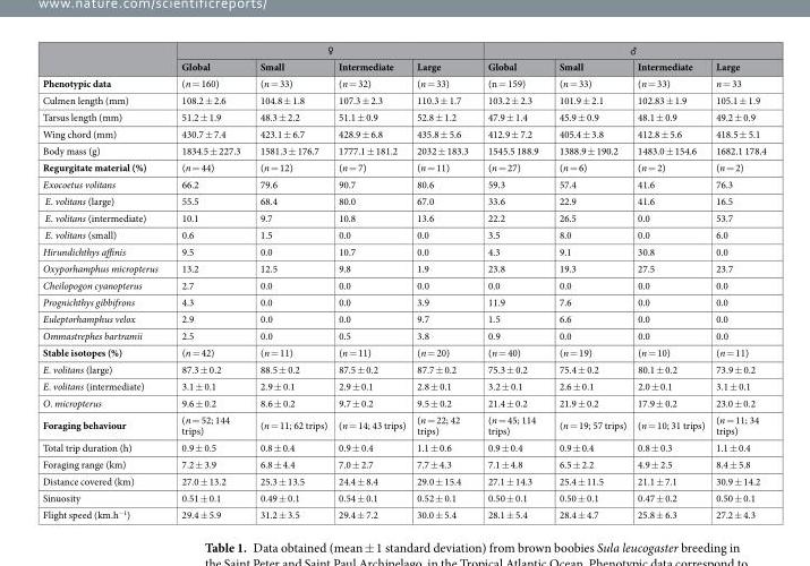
<table><thead><tr><td rowspan="2"></td><td colspan="4">♀</td><td colspan="4">♂</td></tr><tr><td>Global</td><td>Small</td><td>Intermediate</td><td>Large</td><td>Global</td><td>Small</td><td>Intermediate</td><td>Large</td></tr></thead><tbody><tr><td>Phenotypic data</td><td>(n = 160)</td><td>(n = 33)</td><td>(n = 32)</td><td>(n = 33)</td><td>(n = 159)</td><td>(n = 33)</td><td>(n = 33)</td><td>n = 33</td></tr><tr><td>Culmen length (mm)</td><td>108.2 ± 2.6</td><td>104.8 ± 1.8</td><td>107.3 ± 2.3</td><td>110.3 ± 1.7</td><td>103.2 ± 2.3</td><td>101.9 ± 2.1</td><td>102.83 ± 1.9</td><td>105.1 ± 1.9</td></tr><tr><td>Tarsus length (mm)</td><td>51.2 ± 1.9</td><td>48.3 ± 2.2</td><td>51.1 ± 0.9</td><td>52.8 ± 1.2</td><td>47.9 ± 1.4</td><td>45.9 ± 0.9</td><td>48.1 ± 0.9</td><td>49.2 ± 0.9</td></tr><tr><td>Wing chord (mm)</td><td>430.7 ± 7.4</td><td>423.1 ± 6.7</td><td>428.9 ± 6.8</td><td>435.8 ± 5.6</td><td>412.9 ± 7.2</td><td>405.4 ± 3.8</td><td>412.8 ± 5.6</td><td>418.5 ± 5.1</td></tr><tr><td>Body mass (g)</td><td>1834.5 ± 227.3</td><td>1581.3 ± 176.7</td><td>1777.1 ± 181.2</td><td>2032 ± 183.3</td><td>1545.5 188.9</td><td>1388.9 ± 190.2</td><td>1483.0 ± 154.6</td><td>1682.1 178.4</td></tr><tr><td>Regurgitate material (%)</td><td>(n = 44)</td><td>(n = 12)</td><td>(n = 7)</td><td>(n = 11)</td><td>(n = 27)</td><td>(n = 6)</td><td>(n = 2)</td><td>(n = 2)</td></tr><tr><td>Exocoetus volitans</td><td>66.2</td><td>79.6</td><td>90.7</td><td>80.6</td><td>59.3</td><td>57.4</td><td>41.6</td><td>76.3</td></tr><tr><td>E. volitans (large)</td><td>55.5</td><td>68.4</td><td>80.0</td><td>67.0</td><td>33.6</td><td>22.9</td><td>41.6</td><td>16.5</td></tr><tr><td>E. volitans (intermediate)</td><td>10.1</td><td>9.7</td><td>10.8</td><td>13.6</td><td>22.2</td><td>26.5</td><td>0.0</td><td>53.7</td></tr><tr><td>E. volitans (small)</td><td>0.6</td><td>1.5</td><td>0.0</td><td>0.0</td><td>3.5</td><td>8.0</td><td>0.0</td><td>6.0</td></tr><tr><td>Hirundichthys affinis</td><td>9.5</td><td>0.0</td><td>10.7</td><td>0.0</td><td>4.3</td><td>9.1</td><td>30.8</td><td>0.0</td></tr><tr><td>Oxyporhamphus micropterus</td><td>13.2</td><td>12.5</td><td>9.8</td><td>1.9</td><td>23.8</td><td>19.3</td><td>27.5</td><td>23.7</td></tr><tr><td>Cheilopogon cyanopterus</td><td>2.7</td><td>0.0</td><td>0.0</td><td>0.0</td><td>0.0</td><td>0.0</td><td>0.0</td><td>0.0</td></tr><tr><td>Prognichthys gibbifrons</td><td>4.3</td><td>0.0</td><td>0.0</td><td>3.9</td><td>11.9</td><td>7.6</td><td>0.0</td><td>0.0</td></tr><tr><td>Euleptorhamphus velox</td><td>2.9</td><td>0.0</td><td>0.0</td><td>9.7</td><td>1.5</td><td>6.6</td><td>0.0</td><td>0.0</td></tr><tr><td>Ommastrephes bartramii</td><td>2.5</td><td>0.0</td><td>0.5</td><td>3.8</td><td>0.9</td><td>0.0</td><td>0.0</td><td>0.0</td></tr><tr><td>Stable isotopes (%)</td><td>(n = 42)</td><td>(n = 11)</td><td>(n = 11)</td><td>(n = 20)</td><td>(n = 40)</td><td>(n = 19)</td><td>(n = 10)</td><td>(n = 11)</td></tr><tr><td>E. volitans (large)</td><td>87.3 ± 0.2</td><td>88.5 ± 0.2</td><td>87.5 ± 0.2</td><td>87.7 ± 0.2</td><td>75.3 ± 0.2</td><td>75.4 ± 0.2</td><td>80.1 ± 0.2</td><td>73.9 ± 0.2</td></tr><tr><td>E. volitans (intermediate)</td><td>3.1 ± 0.1</td><td>2.9 ± 0.1</td><td>2.9 ± 0.1</td><td>2.8 ± 0.1</td><td>3.2 ± 0.1</td><td>2.6 ± 0.1</td><td>2.0 ± 0.1</td><td>3.1 ± 0.1</td></tr><tr><td>O. micropterus</td><td>9.6 ± 0.2</td><td>8.6 ± 0.2</td><td>9.7 ± 0.2</td><td>9.5 ± 0.2</td><td>21.4 ± 0.2</td><td>21.9 ± 0.2</td><td>17.9 ± 0.2</td><td>23.0 ± 0.2</td></tr><tr><td>Foraging behaviour</td><td>(n = 52; 144 trips)</td><td>(n = 11; 62 trips)</td><td>(n = 14; 43 trips)</td><td>(n = 22; 42 trips)</td><td>(n = 45; 114 trips)</td><td>(n = 19; 57 trips)</td><td>(n = 10; 31 trips)</td><td>(n = 11; 34 trips)</td></tr><tr><td>Total trip duration (h)</td><td>0.9 ± 0.5</td><td>0.8 ± 0.4</td><td>0.9 ± 0.4</td><td>1.1 ± 0.6</td><td>0.9 ± 0.4</td><td>0.9 ± 0.4</td><td>0.8 ± 0.3</td><td>1.1 ± 0.4</td></tr><tr><td>Foraging range (km)</td><td>7.2 ± 3.9</td><td>6.8 ± 4.4</td><td>7.0 ± 2.7</td><td>7.7 ± 4.3</td><td>7.1 ± 4.8</td><td>6.5 ± 2.2</td><td>4.9 ± 2.5</td><td>8.4 ± 5.8</td></tr><tr><td>Distance covered (km)</td><td>27.0 ± 13.2</td><td>25.3 ± 13.5</td><td>24.4 ± 8.4</td><td>29.0 ± 15.4</td><td>27.1 ± 14.3</td><td>25.4 ± 11.5</td><td>21.1 ± 7.1</td><td>30.9 ± 14.2</td></tr><tr><td>Sinuosity</td><td>0.51 ± 0.1</td><td>0.49 ± 0.1</td><td>0.54 ± 0.1</td><td>0.52 ± 0.1</td><td>0.50 ± 0.1</td><td>0.50 ± 0.1</td><td>0.47 ± 0.2</td><td>0.50 ± 0.1</td></tr><tr><td>Flight speed (km.h<sup>−1</sup>)</td><td>29.4 ± 5.9</td><td>31.2 ± 3.5</td><td>29.4 ± 7.2</td><td>30.0 ± 5.4</td><td>28.1 ± 5.4</td><td>28.4 ± 4.7</td><td>25.8 ± 6.3</td><td>27.2 ± 4.3</td></tr></tbody></table>